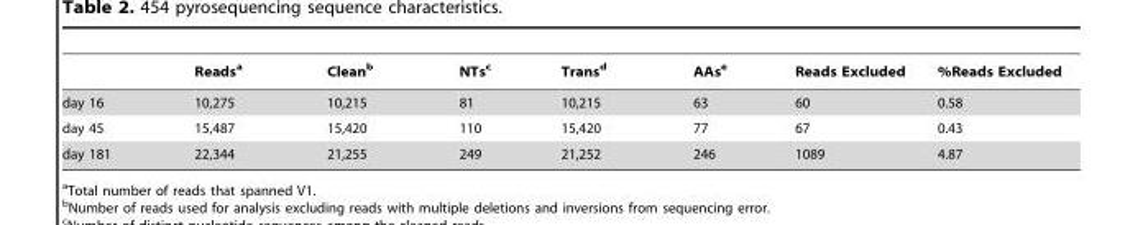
<table><thead><tr><td></td><td>Reads<sup>a</sup></td><td>Clean<sup>b</sup></td><td>NTs<sup>c</sup></td><td>Trans<sup>d</sup></td><td>AAs<sup>e</sup></td><td>Reads Excluded</td><td>%Reads Excluded</td></tr></thead><tbody><tr><td>day 16</td><td>10,275</td><td>10,215</td><td>81</td><td>10,215</td><td>63</td><td>60</td><td>0.58</td></tr><tr><td>day 45</td><td>15,487</td><td>15,420</td><td>110</td><td>15,420</td><td>77</td><td>67</td><td>0.43</td></tr><tr><td>day 181</td><td>22,344</td><td>21,255</td><td>249</td><td>21,252</td><td>246</td><td>1089</td><td>4.87</td></tr></tbody></table>